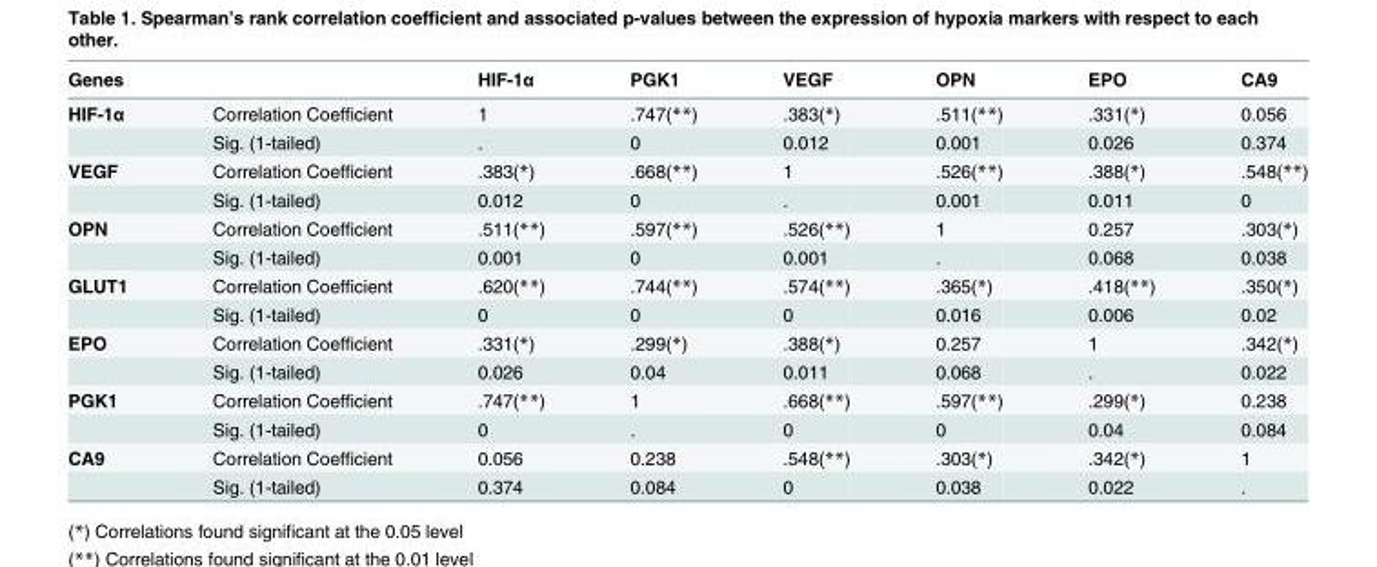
<table><thead><tr><td>Genes</td><td></td><td>HIF-1α</td><td>PGK1</td><td>VEGF</td><td>OPN</td><td>EPO</td><td>CA9</td></tr></thead><tbody><tr><td rowspan="2">HIF-1α</td><td>Correlation Coefficient</td><td>1</td><td>.747(**)</td><td>.383(*)</td><td>.511(**)</td><td>.331(*)</td><td>0.056</td></tr><tr><td>Sig. (1-tailed)</td><td>.</td><td>0</td><td>0.012</td><td>0.001</td><td>0.026</td><td>0.374</td></tr><tr><td rowspan="2">VEGF</td><td>Correlation Coefficient</td><td>.383(*)</td><td>.668(**)</td><td>1</td><td>.526(**)</td><td>.388(*)</td><td>.548(**)</td></tr><tr><td>Sig. (1-tailed)</td><td>0.012</td><td>0</td><td>.</td><td>0.001</td><td>0.011</td><td>0</td></tr><tr><td rowspan="2">OPN</td><td>Correlation Coefficient</td><td>.511(**)</td><td>.597(**)</td><td>.526(**)</td><td>1</td><td>0.257</td><td>.303(*)</td></tr><tr><td>Sig. (1-tailed)</td><td>0.001</td><td>0</td><td>0.001</td><td>.</td><td>0.068</td><td>0.038</td></tr><tr><td rowspan="2">GLUT1</td><td>Correlation Coefficient</td><td>.620(**)</td><td>.744(**)</td><td>.574(**)</td><td>.365(*)</td><td>.418(**)</td><td>.350(*)</td></tr><tr><td>Sig. (1-tailed)</td><td>0</td><td>0</td><td>0</td><td>0.016</td><td>0.006</td><td>0.02</td></tr><tr><td rowspan="2">EPO</td><td>Correlation Coefficient</td><td>.331(*)</td><td>.299(*)</td><td>.388(*)</td><td>0.257</td><td>1</td><td>.342(*)</td></tr><tr><td>Sig. (1-tailed)</td><td>0.026</td><td>0.04</td><td>0.011</td><td>0.068</td><td>.</td><td>0.022</td></tr><tr><td rowspan="2">PGK1</td><td>Correlation Coefficient</td><td>.747(**)</td><td>1</td><td>.668(**)</td><td>.597(**)</td><td>.299(*)</td><td>0.238</td></tr><tr><td>Sig. (1-tailed)</td><td>0</td><td>.</td><td>0</td><td>0</td><td>0.04</td><td>0.084</td></tr><tr><td rowspan="2">CA9</td><td>Correlation Coefficient</td><td>0.056</td><td>0.238</td><td>.548(**)</td><td>.303(*)</td><td>.342(*)</td><td>1</td></tr><tr><td>Sig. (1-tailed)</td><td>0.374</td><td>0.084</td><td>0</td><td>0.038</td><td>0.022</td><td>.</td></tr></tbody></table>